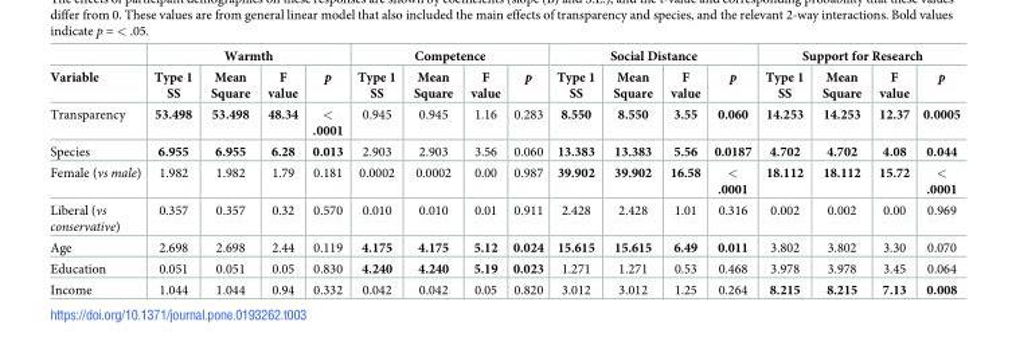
<table><thead><tr><td rowspan="2">Variable</td><td colspan="4">Warmth</td><td colspan="4">Competence</td><td colspan="4">Social Distance</td><td colspan="4">Support for Research</td></tr><tr><td>Type 1 SS</td><td>Mean Square</td><td>F value</td><td>p</td><td>Type 1 SS</td><td>Mean Square</td><td>F value</td><td>p</td><td>Type 1 SS</td><td>Mean Square</td><td>F value</td><td>p</td><td>Type 1 SS</td><td>Mean Square</td><td>F value</td><td>p</td></tr></thead><tbody><tr><td>Transparency</td><td>53.498</td><td>53.498</td><td>48.34</td><td>&lt; .0001</td><td>0.945</td><td>0.945</td><td>1.16</td><td>0.283</td><td>8.550</td><td>8.550</td><td>3.55</td><td>0.060</td><td>14.253</td><td>14.253</td><td>12.37</td><td>0.0005</td></tr><tr><td>Species</td><td>6.955</td><td>6.955</td><td>6.28</td><td>0.013</td><td>2.903</td><td>2.903</td><td>3.56</td><td>0.060</td><td>13.383</td><td>13.383</td><td>5.56</td><td>0.0187</td><td>4.702</td><td>4.702</td><td>4.08</td><td>0.044</td></tr><tr><td>Female (vs male)</td><td>1.982</td><td>1.982</td><td>1.79</td><td>0.181</td><td>0.0002</td><td>0.0002</td><td>0.00</td><td>0.987</td><td>39.902</td><td>39.902</td><td>16.58</td><td>&lt; .0001</td><td>18.112</td><td>18.112</td><td>15.72</td><td>&lt; .0001</td></tr><tr><td>Liberal (vs conservative)</td><td>0.357</td><td>0.357</td><td>0.32</td><td>0.570</td><td>0.010</td><td>0.010</td><td>0.01</td><td>0.911</td><td>2.428</td><td>2.428</td><td>1.01</td><td>0.316</td><td>0.002</td><td>0.002</td><td>0.00</td><td>0.969</td></tr><tr><td>Age</td><td>2.698</td><td>2.698</td><td>2.44</td><td>0.119</td><td>4.175</td><td>4.175</td><td>5.12</td><td>0.024</td><td>15.615</td><td>15.615</td><td>6.49</td><td>0.011</td><td>3.802</td><td>3.802</td><td>3.30</td><td>0.070</td></tr><tr><td>Education</td><td>0.051</td><td>0.051</td><td>0.05</td><td>0.830</td><td>4.240</td><td>4.240</td><td>5.19</td><td>0.023</td><td>1.271</td><td>1.271</td><td>0.53</td><td>0.468</td><td>3.978</td><td>3.978</td><td>3.45</td><td>0.064</td></tr><tr><td>Income</td><td>1.044</td><td>1.044</td><td>0.94</td><td>0.332</td><td>0.042</td><td>0.042</td><td>0.05</td><td>0.820</td><td>3.012</td><td>3.012</td><td>1.25</td><td>0.264</td><td>8.215</td><td>8.215</td><td>7.13</td><td>0.008</td></tr></tbody></table>